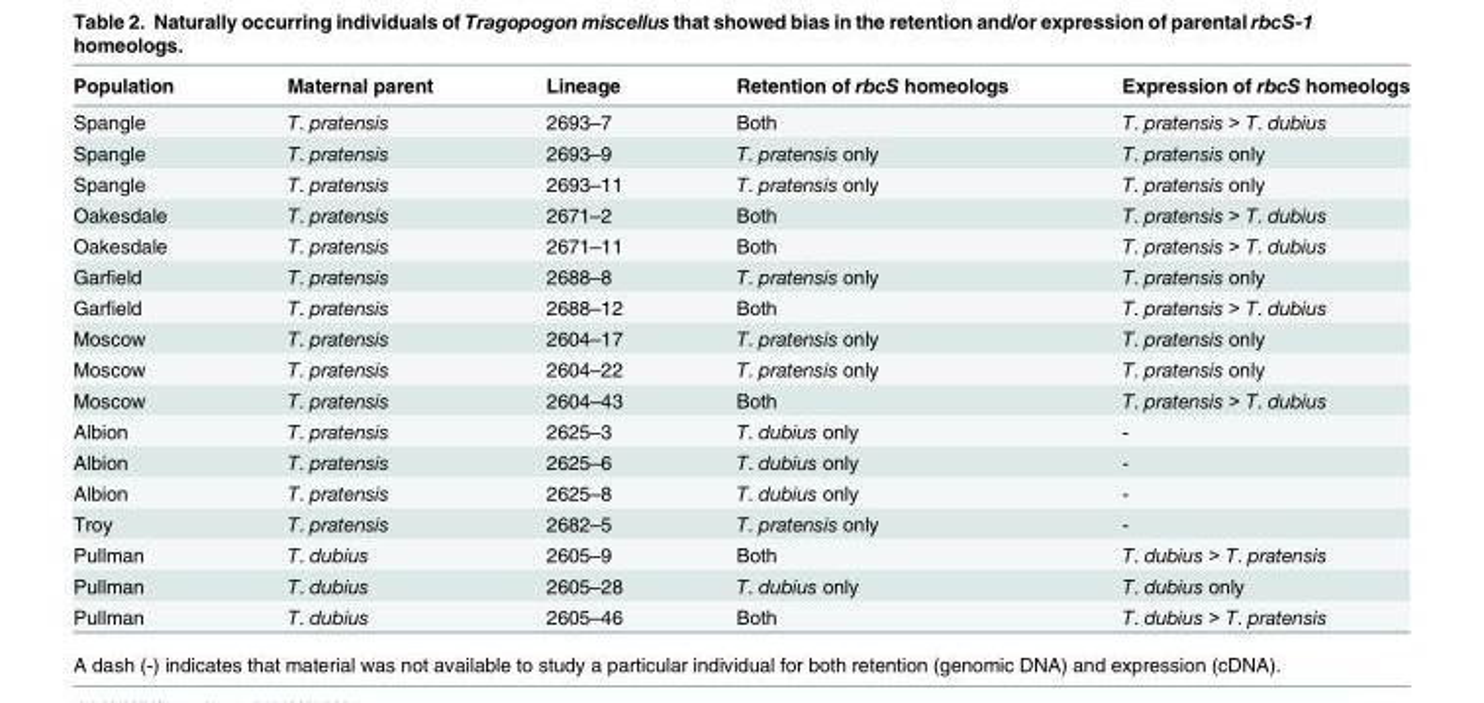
<table><thead><tr><td>Population</td><td>Maternal parent</td><td>Lineage</td><td>Retention of rbcS homeologs</td><td>Expression of rbcS homeologs</td></tr></thead><tbody><tr><td>Spangle</td><td>T. pratensis</td><td>2693–7</td><td>Both</td><td>T. pratensis &gt; T. dubius</td></tr><tr><td>Spangle</td><td>T. pratensis</td><td>2693–9</td><td>T. pratensis only</td><td>T. pratensis only</td></tr><tr><td>Spangle</td><td>T. pratensis</td><td>2693–11</td><td>T. pratensis only</td><td>T. pratensis only</td></tr><tr><td>Oakesdale</td><td>T. pratensis</td><td>2671–2</td><td>Both</td><td>T. pratensis &gt; T. dubius</td></tr><tr><td>Oakesdale</td><td>T. pratensis</td><td>2671–11</td><td>Both</td><td>T. pratensis &gt; T. dubius</td></tr><tr><td>Garfield</td><td>T. pratensis</td><td>2688–8</td><td>T. pratensis only</td><td>T. pratensis only</td></tr><tr><td>Garfield</td><td>T. pratensis</td><td>2688–12</td><td>Both</td><td>T. pratensis &gt; T. dubius</td></tr><tr><td>Moscow</td><td>T. pratensis</td><td>2604–17</td><td>T. pratensis only</td><td>T. pratensis only</td></tr><tr><td>Moscow</td><td>T. pratensis</td><td>2604–22</td><td>T. pratensis only</td><td>T. pratensis only</td></tr><tr><td>Moscow</td><td>T. pratensis</td><td>2604–43</td><td>Both</td><td>T. pratensis &gt; T. dubius</td></tr><tr><td>Albion</td><td>T. pratensis</td><td>2625–3</td><td>T. dubius only</td><td>-</td></tr><tr><td>Albion</td><td>T. pratensis</td><td>2625–6</td><td>T. dubius only</td><td>-</td></tr><tr><td>Albion</td><td>T. pratensis</td><td>2625–8</td><td>T. dubius only</td><td>-</td></tr><tr><td>Troy</td><td>T. pratensis</td><td>2682–5</td><td>T. pratensis only</td><td>-</td></tr><tr><td>Pullman</td><td>T. dubius</td><td>2605–9</td><td>Both</td><td>T. dubius &gt; T. pratensis</td></tr><tr><td>Pullman</td><td>T. dubius</td><td>2605–28</td><td>T. dubius only</td><td>T. dubius only</td></tr><tr><td>Pullman</td><td>T. dubius</td><td>2605–46</td><td>Both</td><td>T. dubius &gt; T. pratensis</td></tr></tbody></table>